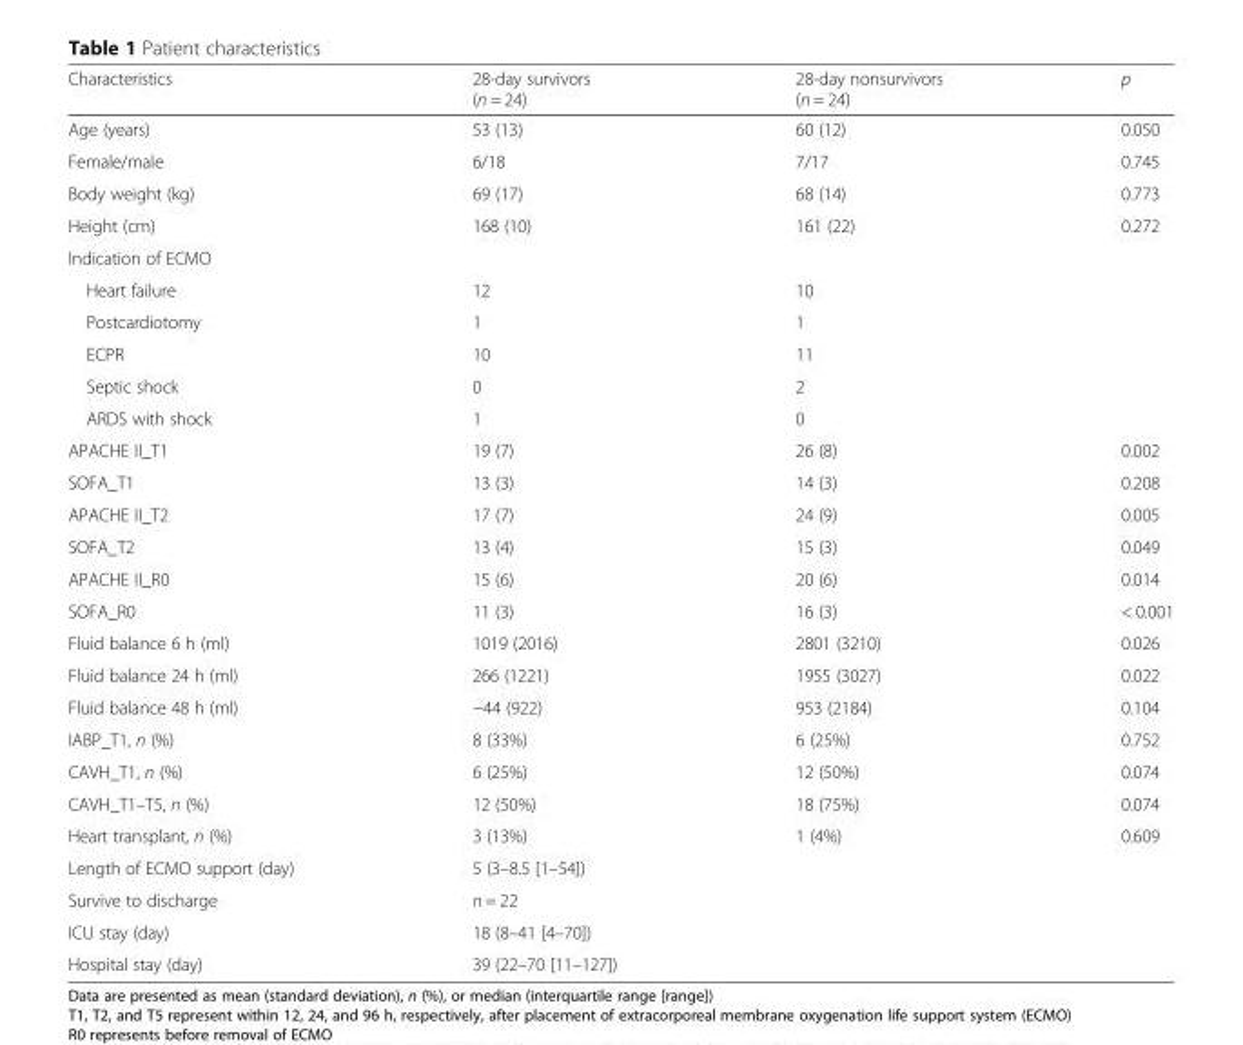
<table><thead><tr><td>Characteristics</td><td>28-day survivors (n = 24)</td><td>28-day nonsurvivors (n = 24)</td><td>p</td></tr></thead><tbody><tr><td>Age (years)</td><td>53 (13)</td><td>60 (12)</td><td>0.050</td></tr><tr><td>Female/male</td><td>6/18</td><td>7/17</td><td>0.745</td></tr><tr><td>Body weight (kg)</td><td>69 (17)</td><td>68 (14)</td><td>0.773</td></tr><tr><td>Height (cm)</td><td>168 (10)</td><td>161 (22)</td><td>0.272</td></tr><tr><td colspan="4">Indication of ECMO</td></tr><tr><td>Heart failure</td><td>12</td><td>10</td><td></td></tr><tr><td>Postcardiotomy</td><td>1</td><td>1</td><td></td></tr><tr><td>ECPR</td><td>10</td><td>11</td><td></td></tr><tr><td>Septic shock</td><td>0</td><td>2</td><td></td></tr><tr><td>ARDS with shock</td><td>1</td><td>0</td><td></td></tr><tr><td>APACHE II_T1</td><td>19 (7)</td><td>26 (8)</td><td>0.002</td></tr><tr><td>SOFA_T1</td><td>13 (3)</td><td>14 (3)</td><td>0.208</td></tr><tr><td>APACHE II_T2</td><td>17 (7)</td><td>24 (9)</td><td>0.005</td></tr><tr><td>SOFA_T2</td><td>13 (4)</td><td>15 (3)</td><td>0.049</td></tr><tr><td>APACHE II_R0</td><td>15 (6)</td><td>20 (6)</td><td>0.014</td></tr><tr><td>SOFA_R0</td><td>11 (3)</td><td>16 (3)</td><td>&lt; 0.001</td></tr><tr><td>Fluid balance 6 h (ml)</td><td>1019 (2016)</td><td>2801 (3210)</td><td>0.026</td></tr><tr><td>Fluid balance 24 h (ml)</td><td>266 (1221)</td><td>1955 (3027)</td><td>0.022</td></tr><tr><td>Fluid balance 48 h (ml)</td><td>−44 (922)</td><td>953 (2184)</td><td>0.104</td></tr><tr><td>IABP_T1, n (%)</td><td>8 (33%)</td><td>6 (25%)</td><td>0.752</td></tr><tr><td>CAVH_T1, n (%)</td><td>6 (25%)</td><td>12 (50%)</td><td>0.074</td></tr><tr><td>CAVH_T1–T5, n (%)</td><td>12 (50%)</td><td>18 (75%)</td><td>0.074</td></tr><tr><td>Heart transplant, n (%)</td><td>3 (13%)</td><td>1 (4%)</td><td>0.609</td></tr><tr><td>Length of ECMO support (day)</td><td>5 (3–8.5 [1–54])</td><td></td><td></td></tr><tr><td>Survive to discharge</td><td>n = 22</td><td></td><td></td></tr><tr><td>ICU stay (day)</td><td>18 (8–41 [4–70])</td><td></td><td></td></tr><tr><td>Hospital stay (day)</td><td>39 (22–70 [11–127])</td><td></td><td></td></tr></tbody></table>